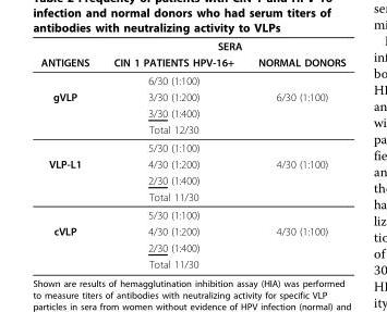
<table><thead><tr><td rowspan="2">ANTIGENS</td><td colspan="2">SERA</td></tr><tr><td>CIN 1 PATIENTS HPV-16+</td><td>NORMAL DONORS</td></tr></thead><tbody><tr><td></td><td>6/30 (1:100)</td><td></td></tr><tr><td rowspan="4">gVLP</td><td>3/30 (1:200)</td><td>6/30 (1:100)</td></tr><tr><td>3/30 (1:400)</td><td></td></tr><tr><td>Total 12/30</td><td></td></tr><tr><td>5/30 (1:100)</td><td></td></tr><tr><td rowspan="4">VLP-L1</td><td>4/30 (1:200)</td><td>4/30 (1:100)</td></tr><tr><td>2/30 (1:400)</td><td></td></tr><tr><td>Total 11/30</td><td></td></tr><tr><td>5/30 (1:100)</td><td></td></tr><tr><td rowspan="3">cVLP</td><td>4/30 (1:200)</td><td>4/30 (1:100)</td></tr><tr><td>2/30 (1:400)</td><td></td></tr><tr><td>Total 11/30</td><td></td></tr></tbody></table>